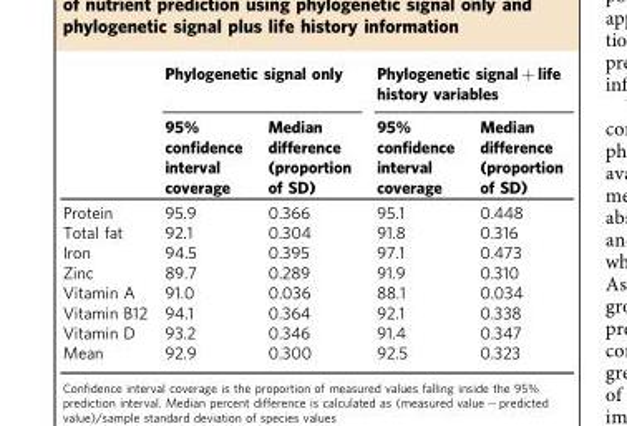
<table><thead><tr><td rowspan="2"></td><td colspan="2">Phylogenetic signal only</td><td colspan="2">Phylogenetic signal + life history variables</td></tr><tr><td>95% confidence interval coverage</td><td>Median difference (proportion of SD)</td><td>95% confidence interval coverage</td><td>Median difference (proportion of SD)</td></tr></thead><tbody><tr><td>Protein</td><td>95.9</td><td>0.366</td><td>95.1</td><td>0.448</td></tr><tr><td>Total fat</td><td>92.1</td><td>0.304</td><td>91.8</td><td>0.316</td></tr><tr><td>Iron</td><td>94.5</td><td>0.395</td><td>97.1</td><td>0.473</td></tr><tr><td>Zinc</td><td>89.7</td><td>0.289</td><td>91.9</td><td>0.310</td></tr><tr><td>Vitamin A</td><td>91.0</td><td>0.036</td><td>88.1</td><td>0.034</td></tr><tr><td>Vitamin B12</td><td>94.1</td><td>0.364</td><td>92.1</td><td>0.338</td></tr><tr><td>Vitamin D</td><td>93.2</td><td>0.346</td><td>91.4</td><td>0.347</td></tr><tr><td>Mean</td><td>92.9</td><td>0.300</td><td>92.5</td><td>0.323</td></tr></tbody></table>